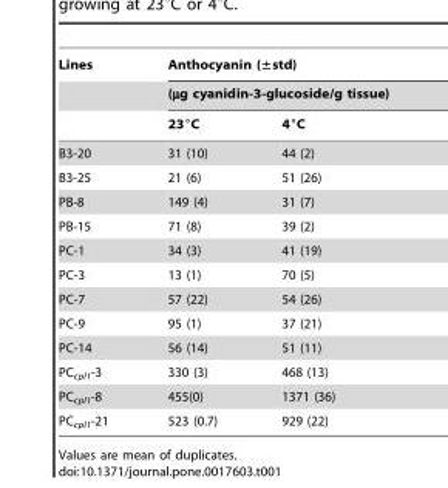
<table><thead><tr><td rowspan="3">Lines</td><td rowspan="2" colspan="2">Anthocyanin (±std) (µg cyanidin-3-glucoside/g tissue)</td></tr><tr></tr><tr><td>23°C</td><td>4°C</td></tr></thead><tbody><tr><td>B3-20</td><td>31 (10)</td><td>44 (2)</td></tr><tr><td>B3-25</td><td>21 (6)</td><td>51 (26)</td></tr><tr><td>PB-8</td><td>149 (4)</td><td>31 (7)</td></tr><tr><td>PB-15</td><td>71 (8)</td><td>39 (2)</td></tr><tr><td>PC-1</td><td>34 (3)</td><td>41 (19)</td></tr><tr><td>PC-3</td><td>13 (1)</td><td>70 (5)</td></tr><tr><td>PC-7</td><td>57 (22)</td><td>54 (26)</td></tr><tr><td>PC-9</td><td>95 (1)</td><td>37 (21)</td></tr><tr><td>PC-14</td><td>56 (14)</td><td>51 (11)</td></tr><tr><td>PC<sub>cpl1</sub>-3</td><td>330 (3)</td><td>468 (13)</td></tr><tr><td>PC<sub>cpl1</sub>-8</td><td>455(0)</td><td>1371 (36)</td></tr><tr><td>PC<sub>cpl1</sub>-21</td><td>523 (0.7)</td><td>929 (22)</td></tr></tbody></table>